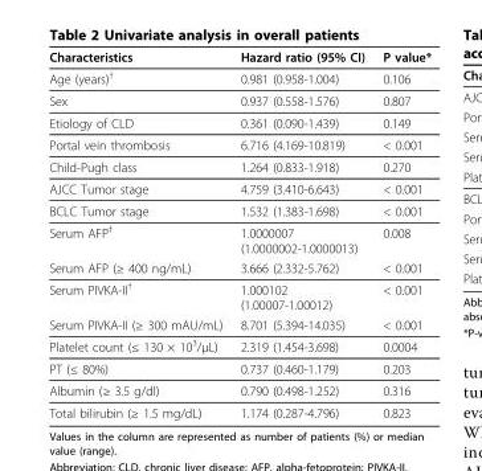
<table><thead><tr><td>Characteristics</td><td>Hazard ratio (95% CI)</td><td>P value*</td></tr></thead><tbody><tr><td>Age (years)†</td><td>0.981 (0.958-1.004)</td><td>0.106</td></tr><tr><td>Sex</td><td>0.937 (0.558-1.576)</td><td>0.807</td></tr><tr><td>Etiology of CLD</td><td>0.361 (0.090-1.439)</td><td>0.149</td></tr><tr><td>Portal vein thrombosis</td><td>6.716 (4.169-10.819)</td><td>&lt; 0.001</td></tr><tr><td>Child-Pugh class</td><td>1.264 (0.833-1.918)</td><td>0.270</td></tr><tr><td>AJCC Tumor stage</td><td>4.759 (3.410-6.643)</td><td>&lt; 0.001</td></tr><tr><td>BCLC Tumor stage</td><td>1.532 (1.383-1.698)</td><td>&lt; 0.001</td></tr><tr><td>Serum AFP†</td><td>1.0000007 (1.0000002-1.0000013)</td><td>0.008</td></tr><tr><td>Serum AFP (≥ 400 ng/mL)</td><td>3.666 (2.332-5.762)</td><td>&lt; 0.001</td></tr><tr><td>Serum PIVKA-II†</td><td>1.000102 (1.00007-1.00012)</td><td>&lt; 0.001</td></tr><tr><td>Serum PIVKA-II (≥ 300 mAU/mL)</td><td>8.701 (5.394-14.035)</td><td>&lt; 0.001</td></tr><tr><td>Platelet count (≤ 130 × 103/μL)</td><td>2.319 (1.454-3.698)</td><td>0.0004</td></tr><tr><td>PT (≤ 80%)</td><td>0.737 (0.460-1.179)</td><td>0.203</td></tr><tr><td>Albumin (≥ 3.5 g/dl)</td><td>0.790 (0.498-1.252)</td><td>0.316</td></tr><tr><td>Total bilirubin (≥ 1.5 mg/dL)</td><td>1.174 (0.287-4.796)</td><td>0.823</td></tr></tbody></table>